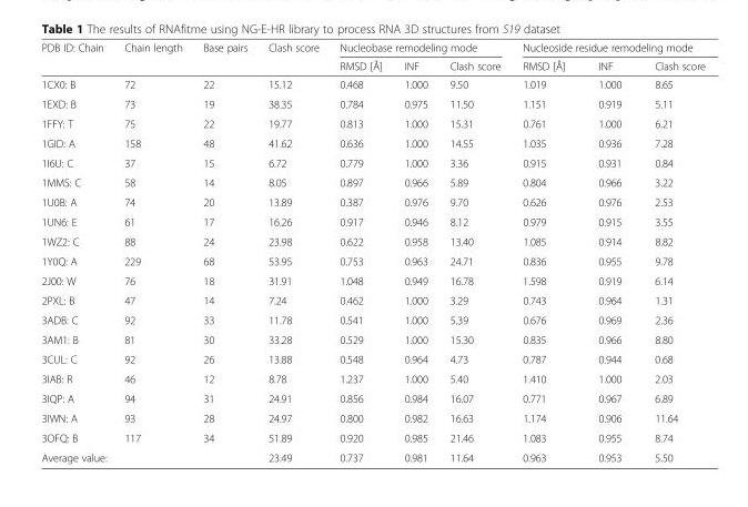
<table><thead><tr><td rowspan="2">PDB ID: Chain</td><td rowspan="2">Chain length</td><td rowspan="2">Base pairs</td><td rowspan="2">Clash score</td><td colspan="3">Nucleobase remodeling mode</td><td colspan="3">Nucleoside residue remodeling mode</td></tr><tr><td>RMSD [Å]</td><td>INF</td><td>Clash score</td><td>RMSD [Å]</td><td>INF</td><td>Clash score</td></tr></thead><tbody><tr><td>1CX0: B</td><td>72</td><td>22</td><td>15.12</td><td>0.468</td><td>1.000</td><td>9.50</td><td>1.019</td><td>1.000</td><td>8.65</td></tr><tr><td>1EXD: B</td><td>73</td><td>19</td><td>38.35</td><td>0.784</td><td>0.975</td><td>11.50</td><td>1.151</td><td>0.919</td><td>5.11</td></tr><tr><td>1FFY: T</td><td>75</td><td>22</td><td>19.77</td><td>0.813</td><td>1.000</td><td>15.31</td><td>0.761</td><td>1.000</td><td>6.21</td></tr><tr><td>1GID: A</td><td>158</td><td>48</td><td>41.62</td><td>0.636</td><td>1.000</td><td>14.55</td><td>1.035</td><td>0.936</td><td>7.28</td></tr><tr><td>1I6U: C</td><td>37</td><td>15</td><td>6.72</td><td>0.779</td><td>1.000</td><td>3.36</td><td>0.915</td><td>0.931</td><td>0.84</td></tr><tr><td>1MMS: C</td><td>58</td><td>14</td><td>8.05</td><td>0.897</td><td>0.966</td><td>5.89</td><td>0.804</td><td>0.966</td><td>3.22</td></tr><tr><td>1U0B: A</td><td>74</td><td>20</td><td>13.89</td><td>0.387</td><td>0.976</td><td>9.70</td><td>0.626</td><td>0.976</td><td>2.53</td></tr><tr><td>1UN6: E</td><td>61</td><td>17</td><td>16.26</td><td>0.917</td><td>0.946</td><td>8.12</td><td>0.979</td><td>0.915</td><td>3.55</td></tr><tr><td>1WZ2: C</td><td>88</td><td>24</td><td>23.98</td><td>0.622</td><td>0.958</td><td>13.40</td><td>1.085</td><td>0.914</td><td>8.82</td></tr><tr><td>1Y0Q: A</td><td>229</td><td>68</td><td>53.95</td><td>0.753</td><td>0.963</td><td>24.71</td><td>0.836</td><td>0.955</td><td>9.78</td></tr><tr><td>2J00: W</td><td>76</td><td>18</td><td>31.91</td><td>1.048</td><td>0.949</td><td>16.78</td><td>1.598</td><td>0.919</td><td>6.14</td></tr><tr><td>2PXL: B</td><td>47</td><td>14</td><td>7.24</td><td>0.462</td><td>1.000</td><td>3.29</td><td>0.743</td><td>0.964</td><td>1.31</td></tr><tr><td>3ADB: C</td><td>92</td><td>33</td><td>11.78</td><td>0.541</td><td>1.000</td><td>5.39</td><td>0.676</td><td>0.969</td><td>2.36</td></tr><tr><td>3AM1: B</td><td>81</td><td>30</td><td>33.28</td><td>0.529</td><td>1.000</td><td>15.30</td><td>0.835</td><td>0.966</td><td>8.80</td></tr><tr><td>3CUL: C</td><td>92</td><td>26</td><td>13.88</td><td>0.548</td><td>0.964</td><td>4.73</td><td>0.787</td><td>0.944</td><td>0.68</td></tr><tr><td>3IAB: R</td><td>46</td><td>12</td><td>8.78</td><td>1.237</td><td>1.000</td><td>5.40</td><td>1.410</td><td>1.000</td><td>2.03</td></tr><tr><td>3IQP: A</td><td>94</td><td>31</td><td>24.91</td><td>0.856</td><td>0.984</td><td>16.07</td><td>0.771</td><td>0.967</td><td>6.89</td></tr><tr><td>3IWN: A</td><td>93</td><td>28</td><td>24.97</td><td>0.800</td><td>0.982</td><td>16.63</td><td>1.174</td><td>0.906</td><td>11.64</td></tr><tr><td>3OFQ: B</td><td>117</td><td>34</td><td>51.89</td><td>0.920</td><td>0.985</td><td>21.46</td><td>1.083</td><td>0.955</td><td>8.74</td></tr><tr><td colspan="3">Average value:</td><td>23.49</td><td>0.737</td><td>0.981</td><td>11.64</td><td>0.963</td><td>0.953</td><td>5.50</td></tr></tbody></table>